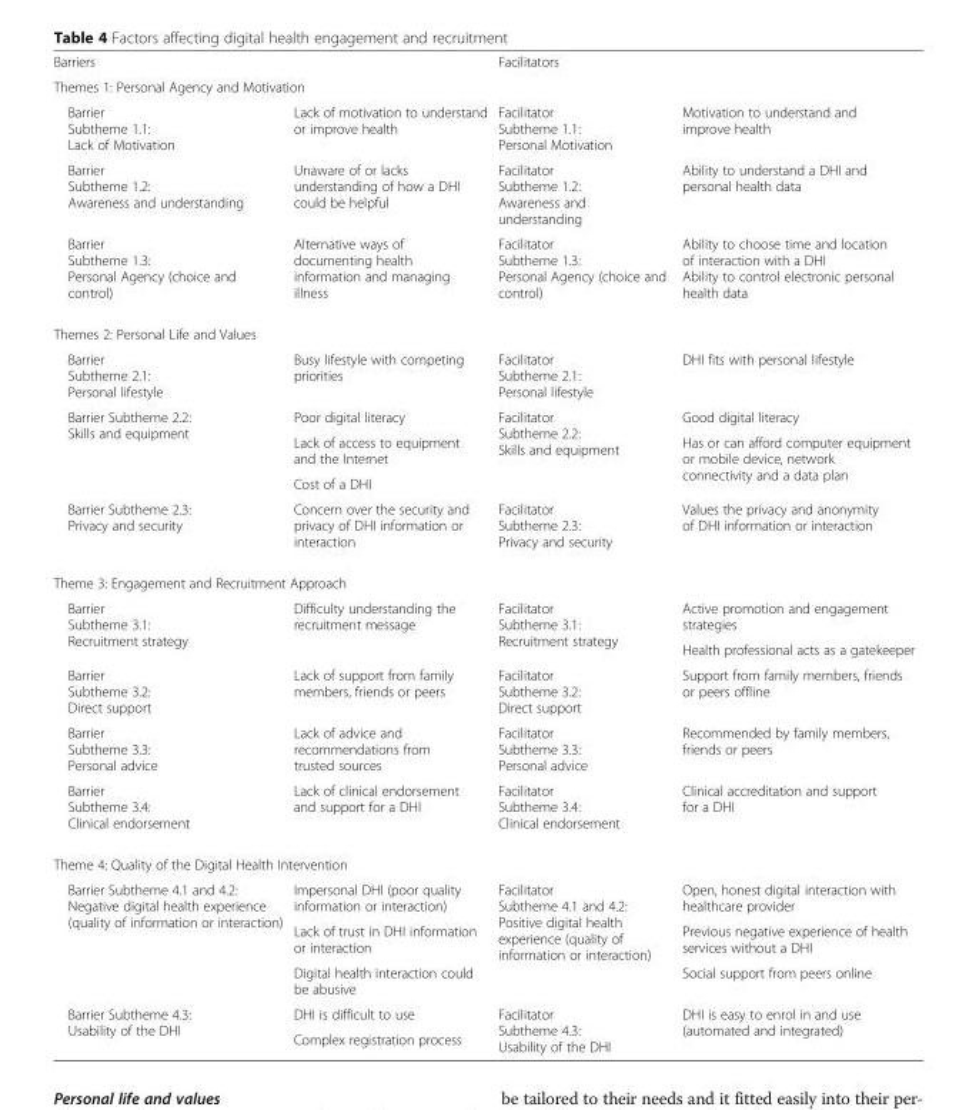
<table><tbody><tr><td colspan="2">Barriers</td><td colspan="2">Facilitators</td></tr><tr><td colspan="4">Themes 1: Personal Agency and Motivation</td></tr><tr><td>Barrier Subtheme 1.1: Lack of Motivation</td><td>Lack of motivation to understand or improve health</td><td>Facilitator Subtheme 1.1: Personal Motivation</td><td>Motivation to understand and improve health</td></tr><tr><td>Barrier Subtheme 1.2: Awareness and understanding</td><td>Unaware of or lacks understanding of how a DHI could be helpful</td><td>Facilitator Subtheme 1.2: Awareness and understanding</td><td>Ability to understand a DHI and personal health data</td></tr><tr><td>Barrier Subtheme 1.3: Personal Agency (choice and control)</td><td>Alternative ways of documenting health information and managing illness</td><td>Facilitator Subtheme 1.3: Personal Agency (choice and control)</td><td>Ability to choose time and location of interaction with a DHI Ability to control electronic personal health data</td></tr><tr><td colspan="4">Themes 2: Personal Life and Values</td></tr><tr><td>Barrier Subtheme 2.1: Personal lifestyle</td><td>Busy lifestyle with competing priorities</td><td>Facilitator Subtheme 2.1: Personal lifestyle</td><td>DHI fits with personal lifestyle</td></tr><tr><td rowspan="3">Barrier Subtheme 2.2: Skills and equipment</td><td>Poor digital literacy</td><td rowspan="3">Facilitator Subtheme 2.2: Skills and equipment</td><td>Good digital literacy</td></tr><tr><td>Lack of access to equipment and the Internet</td><td rowspan="2">Has or can afford computer equipment or mobile device, network connectivity and a data plan</td></tr><tr><td>Cost of a DHI</td></tr><tr><td>Barrier Subtheme 2.3: Privacy and security</td><td>Concern over the security and privacy of DHI information or interaction</td><td>Facilitator Subtheme 2.3: Privacy and security</td><td>Values the privacy and anonymity of DHI information or interaction</td></tr><tr><td colspan="4">Theme 3: Engagement and Recruitment Approach</td></tr><tr><td rowspan="2">Barrier Subtheme 3.1: Recruitment strategy</td><td rowspan="2">Difficulty understanding the recruitment message</td><td rowspan="2">Facilitator Subtheme 3.1: Recruitment strategy</td><td>Active promotion and engagement strategies</td></tr><tr><td>Health professional acts as a gatekeeper</td></tr><tr><td>Barrier Subtheme 3.2: Direct support</td><td>Lack of support from family members, friends or peers</td><td>Facilitator Subtheme 3.2: Direct support</td><td>Support from family members, friends or peers offline</td></tr><tr><td>Barrier Subtheme 3.3: Personal advice</td><td>Lack of advice and recommendations from trusted sources</td><td>Facilitator Subtheme 3.3: Personal advice</td><td>Recommended by family members, friends or peers</td></tr><tr><td>Barrier Subtheme 3.4: Clinical endorsement</td><td>Lack of clinical endorsement and support for a DHI</td><td>Facilitator Subtheme 3.4: Clinical endorsement</td><td>Clinical accreditation and support for a DHI</td></tr><tr><td colspan="4">Theme 4: Quality of the Digital Health Intervention</td></tr><tr><td rowspan="3">Barrier Subtheme 4.1 and 4.2: Negative digital health experience (quality of information or interaction)</td><td>Impersonal DHI (poor quality information or interaction)</td><td rowspan="3">Facilitator Subtheme 4.1 and 4.2: Positive digital health experience (quality of information or interaction)</td><td>Open, honest digital interaction with healthcare provider</td></tr><tr><td>Lack of trust in DHI information or interaction</td><td>Previous negative experience of health services without a DHI</td></tr><tr><td>Digital health interaction could be abusive</td><td>Social support from peers online</td></tr><tr><td rowspan="2">Barrier Subtheme 4.3: Usability of the DHI</td><td>DHI is difficult to use</td><td rowspan="2">Facilitator Subtheme 4.3: Usability of the DHI</td><td rowspan="2">DHI is easy to enrol in and use (automated and integrated)</td></tr><tr><td>Complex registration process</td></tr></tbody></table>